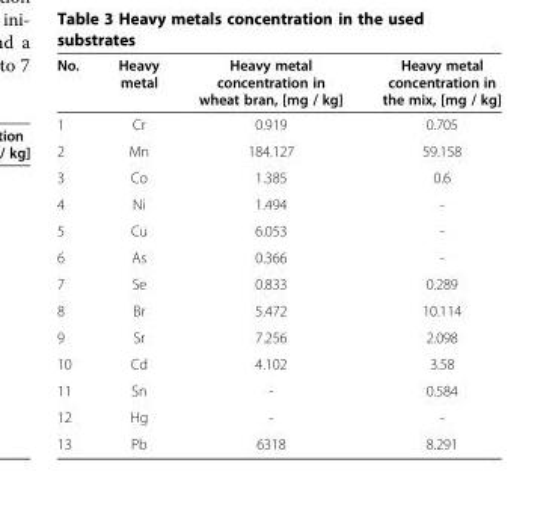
<table><thead><tr><td>No.</td><td>Heavy metal</td><td>Heavy metal concentration in wheat bran, [mg / kg]</td><td>Heavy metal concentration in the mix, [mg / kg]</td></tr></thead><tbody><tr><td>1</td><td>Cr</td><td>0.919</td><td>0.705</td></tr><tr><td>2</td><td>Mn</td><td>184.127</td><td>59.158</td></tr><tr><td>3</td><td>Co</td><td>1.385</td><td>0.6</td></tr><tr><td>4</td><td>Ni</td><td>1.494</td><td>-</td></tr><tr><td>5</td><td>Cu</td><td>6.053</td><td>-</td></tr><tr><td>6</td><td>As</td><td>0.366</td><td>-</td></tr><tr><td>7</td><td>Se</td><td>0.833</td><td>0.289</td></tr><tr><td>8</td><td>Br</td><td>5.472</td><td>10.114</td></tr><tr><td>9</td><td>Sr</td><td>7.256</td><td>2.098</td></tr><tr><td>10</td><td>Cd</td><td>4.102</td><td>3.58</td></tr><tr><td>11</td><td>Sn</td><td>-</td><td>0.584</td></tr><tr><td>12</td><td>Hg</td><td>-</td><td>-</td></tr><tr><td>13</td><td>Pb</td><td>6318</td><td>8.291</td></tr></tbody></table>